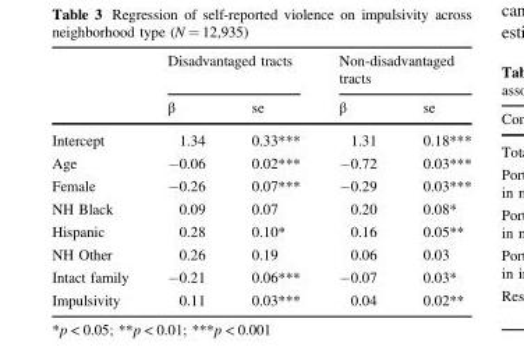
<table><thead><tr><td rowspan="2"></td><td colspan="2">Disadvantaged tracts</td><td colspan="2">Non-disadvantaged tracts</td></tr><tr><td>β</td><td>se</td><td>β</td><td>se</td></tr></thead><tbody><tr><td>Intercept</td><td>1.34</td><td>0.33***</td><td>1.31</td><td>0.18***</td></tr><tr><td>Age</td><td>−0.06</td><td>0.02***</td><td>−0.72</td><td>0.03***</td></tr><tr><td>Female</td><td>−0.26</td><td>0.07***</td><td>−0.29</td><td>0.03***</td></tr><tr><td>NH Black</td><td>0.09</td><td>0.07</td><td>0.20</td><td>0.08*</td></tr><tr><td>Hispanic</td><td>0.28</td><td>0.10*</td><td>0.16</td><td>0.05**</td></tr><tr><td>NH Other</td><td>0.26</td><td>0.19</td><td>0.06</td><td>0.03</td></tr><tr><td>Intact family</td><td>−0.21</td><td>0.06***</td><td>−0.07</td><td>0.03*</td></tr><tr><td>Impulsivity</td><td>0.11</td><td>0.03***</td><td>0.04</td><td>0.02**</td></tr></tbody></table>